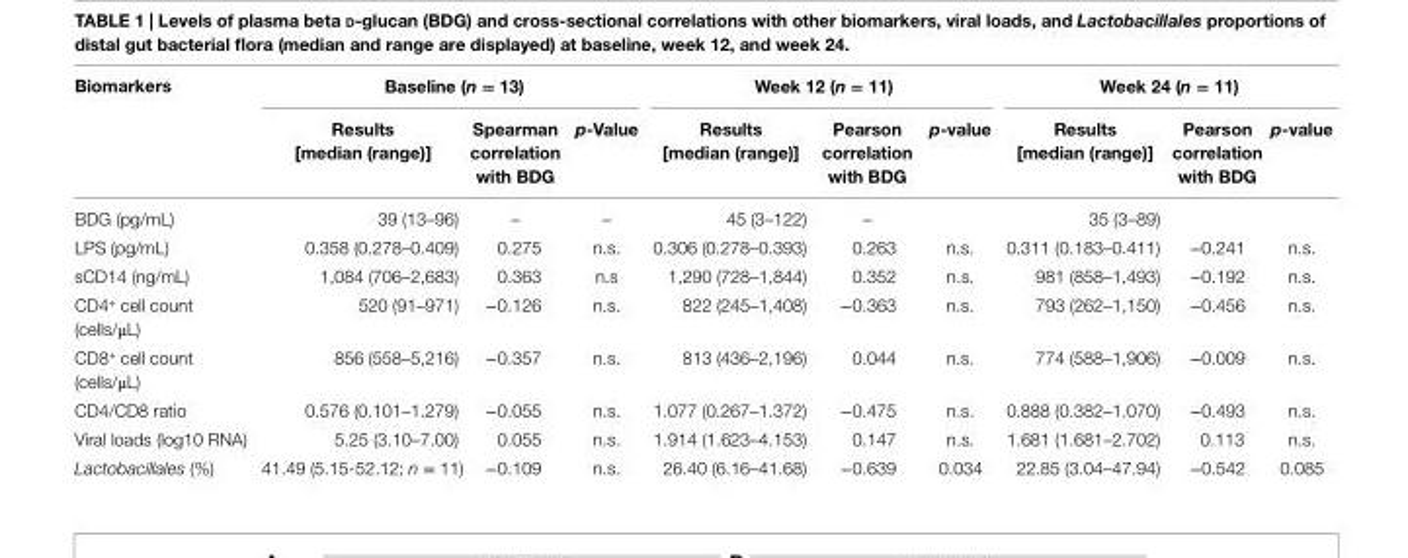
<table><thead><tr><td rowspan="2">Biomarkers</td><td colspan="3">Baseline (n = 13)</td><td colspan="3">Week 12 (n = 11)</td><td colspan="3">Week 24 (n = 11)</td></tr><tr><td>results [median (range)]</td><td>spearman correlation with BDg</td><td>p-Value</td><td>results [median (range)]</td><td>Pearson correlation with BDg</td><td>p-value</td><td>results [median (range)]</td><td>Pearson correlation with BDg</td><td>p-value</td></tr></thead><tbody><tr><td>BDG (pg/mL)</td><td>39 (13–96)</td><td>–</td><td>–</td><td>45 (3–122)</td><td>–</td><td></td><td>35 (3–89)</td><td></td><td></td></tr><tr><td>LPS (pg/mL)</td><td>0.358 (0.278–0.409)</td><td>0.275</td><td>n.s.</td><td>0.306 (0.278–0.393)</td><td>0.263</td><td>n.s.</td><td>0.311 (0.183–0.411)</td><td>−0.241</td><td>n.s.</td></tr><tr><td>sCD14 (ng/mL)</td><td>1,084 (706–2,683)</td><td>0.363</td><td>n.s</td><td>1,290 (728–1,844)</td><td>0.352</td><td>n.s.</td><td>981 (858–1,493)</td><td>−0.192</td><td>n.s.</td></tr><tr><td>CD4<sup>+</sup> cell count (cells/μL)</td><td>520 (91–971)</td><td>−0.126</td><td>n.s.</td><td>822 (245–1,408)</td><td>−0.363</td><td>n.s.</td><td>793 (262–1,150)</td><td>−0.456</td><td>n.s.</td></tr><tr><td>CD8+ cell count (cells/μL)</td><td>856 (558–5,216)</td><td>−0.357</td><td>n.s.</td><td>813 (436–2,196)</td><td>0.044</td><td>n.s.</td><td>774 (588–1,906)</td><td>−0.009</td><td>n.s.</td></tr><tr><td>CD4/CD8 ratio</td><td>0.576 (0.101–1.279)</td><td>−0.055</td><td>n.s.</td><td>1.077 (0.267–1.372)</td><td>−0.475</td><td>n.s.</td><td>0.888 (0.382–1.070)</td><td>−0.493</td><td>n.s.</td></tr><tr><td>Viral loads (log10 RNA)</td><td>5.25 (3.10–7.00)</td><td>0.055</td><td>n.s.</td><td>1.914 (1.623–4.153)</td><td>0.147</td><td>n.s.</td><td>1.681 (1.681–2.702)</td><td>0.113</td><td>n.s.</td></tr><tr><td>Lactobacillales (%)</td><td>41.49 (5.15-52.12; n = 11)</td><td>−0.109</td><td>n.s.</td><td>26.40 (6.16–41.68)</td><td>−0.639</td><td>0.034</td><td>22.85 (3.04–47.94)</td><td>−0.542</td><td>0.085</td></tr></tbody></table>